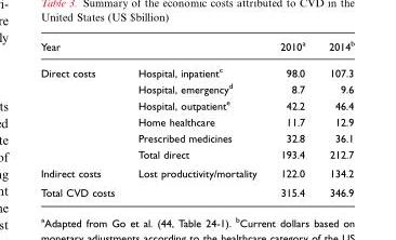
<table><thead><tr><td>Year</td><td></td><td>2010<sup>a</sup></td><td>2014<sup>b</sup></td></tr></thead><tbody><tr><td rowspan="6">Direct costs</td><td>Hospital, inpatient<sup>c</sup></td><td>98.0</td><td>107.3</td></tr><tr><td>Hospital, emergency<sup>d</sup></td><td>8.7</td><td>9.6</td></tr><tr><td>Hospital, outpatient<sup>e</sup></td><td>42.2</td><td>46.4</td></tr><tr><td>Home healthcare</td><td>11.7</td><td>12.9</td></tr><tr><td>Prescribed medicines</td><td>32.8</td><td>36.1</td></tr><tr><td>Total direct</td><td>193.4</td><td>212.7</td></tr><tr><td>Indirect costs</td><td>Lost productivity/mortality</td><td>122.0</td><td>134.2</td></tr><tr><td>Total CVD costs</td><td></td><td>315.4</td><td>346.9</td></tr></tbody></table>